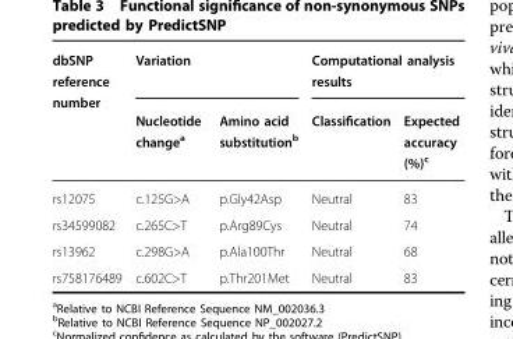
<table><thead><tr><td rowspan="2">dbSNP reference number</td><td colspan="2">Variation</td><td colspan="2">Computational analysis results</td></tr><tr><td>Nucleotide change<sup>a</sup></td><td>Amino acid substitution<sup>b</sup></td><td>Classification</td><td>Expected accuracy (%)<sup>c</sup></td></tr></thead><tbody><tr><td>rs12075</td><td>c.125G&gt;A</td><td>p.Gly42Asp</td><td>Neutral</td><td>83</td></tr><tr><td>rs34599082</td><td>c.265C&gt;T</td><td>p.Arg89Cys</td><td>Neutral</td><td>74</td></tr><tr><td>rs13962</td><td>c.298G&gt;A</td><td>p.Ala100Thr</td><td>Neutral</td><td>68</td></tr><tr><td>rs758176489</td><td>c.602C&gt;T</td><td>p.Thr201Met</td><td>Neutral</td><td>83</td></tr></tbody></table>